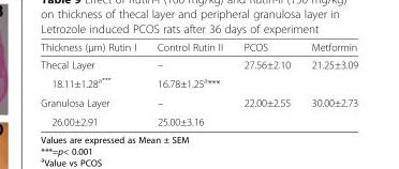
<table><thead><tr><td>Thickness (μm) Rutin I</td><td>Control Rutin II</td><td>PCOS</td><td>Metformin</td></tr></thead><tbody><tr><td>Thecal Layer</td><td>–</td><td>27.56±2.10</td><td>21.25±3.09</td></tr><tr><td>18.11±1.28<sup>a***</sup></td><td>16.78±1.25<sup>a</sup>***</td><td></td><td></td></tr><tr><td>Granulosa Layer</td><td>–</td><td>22.00±2.55</td><td>30.00±2.73</td></tr><tr><td>26.00±2.91</td><td>25.00±3.16</td><td></td><td></td></tr></tbody></table>